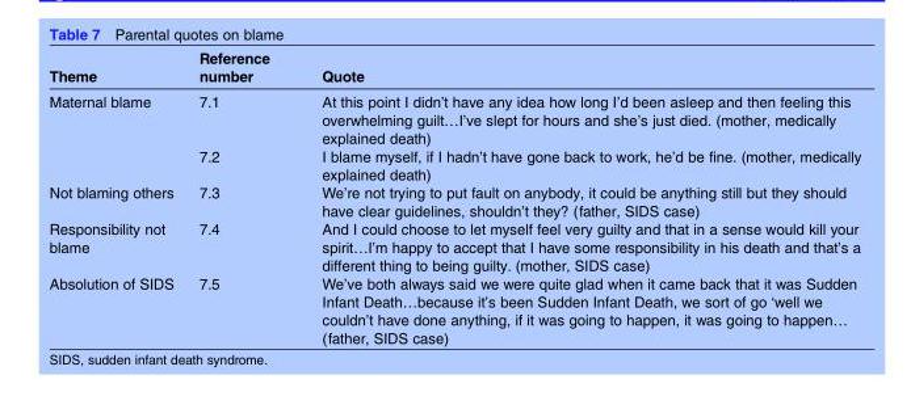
<table><thead><tr><td>Theme</td><td>Reference number</td><td>Quote</td></tr></thead><tbody><tr><td rowspan="2">Maternal blame</td><td>7.1</td><td>At this point I didn’t have any idea how long I’d been asleep and then feeling this overwhelming guilt…I’ve slept for hours and she’s just died. (mother, medically explained death)</td></tr><tr><td>7.2</td><td>I blame myself, if I hadn’t have gone back to work, he’d be fine. (mother, medically explained death)</td></tr><tr><td>Not blaming others</td><td>7.3</td><td>We’re not trying to put fault on anybody, it could be anything still but they should have clear guidelines, shouldn’t they? (father, SIDS case)</td></tr><tr><td>Responsibility not blame</td><td>7.4</td><td>And I could choose to let myself feel very guilty and that in a sense would kill your spirit…I’m happy to accept that I have some responsibility in his death and that’s a different thing to being guilty. (mother, SIDS case)</td></tr><tr><td>Absolution of SIDS</td><td>7.5</td><td>We’ve both always said we were quite glad when it came back that it was Sudden Infant Death…because it’s been Sudden Infant Death, we sort of go ‘well we couldn’t have done anything, if it was going to happen, it was going to happen… (father, SIDS case)</td></tr></tbody></table>